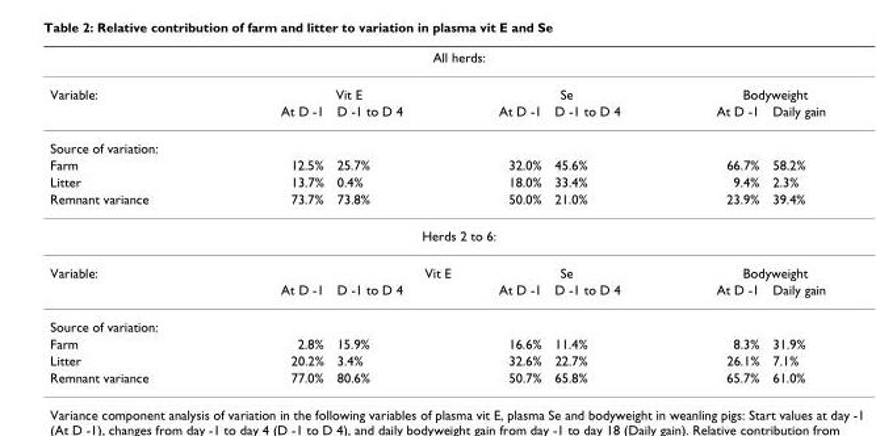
<table><thead><tr><td colspan="7">All herds:</td></tr><tr><td rowspan="2">Variable:</td><td colspan="2">Vit E</td><td colspan="2">Se</td><td colspan="2">Bodyweight</td></tr><tr><td>At D -1</td><td>D -1 to D 4</td><td>At D -1</td><td>D -1 to D 4</td><td>At D -1</td><td>Daily gain</td></tr></thead><tbody><tr><td colspan="7">Source of variation:</td></tr><tr><td>Farm</td><td>12.5%</td><td>25.7%</td><td>32.0%</td><td>45.6%</td><td>66.7%</td><td>58.2%</td></tr><tr><td>Litter</td><td>13.7%</td><td>0.4%</td><td>18.0%</td><td>33.4%</td><td>9.4%</td><td>2.3%</td></tr><tr><td>Remnant variance</td><td>73.7%</td><td>73.8%</td><td>50.0%</td><td>21.0%</td><td>23.9%</td><td>39.4%</td></tr><tr><td colspan="7">Herds 2 to 6:</td></tr><tr><td rowspan="2">Variable:</td><td colspan="2">Vit E</td><td colspan="2">Se</td><td colspan="2">Bodyweight</td></tr><tr><td>At D -1</td><td>D -1 to D 4</td><td>At D -1</td><td>D -1 to D 4</td><td>At D -1</td><td>Daily gain</td></tr><tr><td colspan="7">Source of variation:</td></tr><tr><td>Farm</td><td>2.8%</td><td>15.9%</td><td>16.6%</td><td>11.4%</td><td>8.3%</td><td>31.9%</td></tr><tr><td>Litter</td><td>20.2%</td><td>3.4%</td><td>32.6%</td><td>22.7%</td><td>26.1%</td><td>7.1%</td></tr><tr><td>Remnant variance</td><td>77.0%</td><td>80.6%</td><td>50.7%</td><td>65.8%</td><td>65.7%</td><td>61.0%</td></tr></tbody></table>